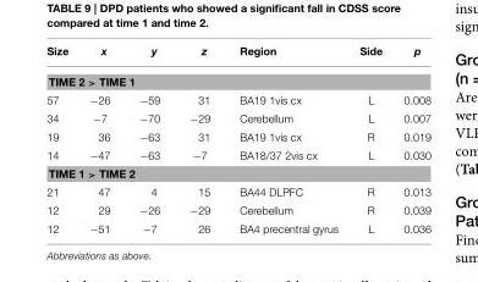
<table><thead><tr><td>Size</td><td>x</td><td>y</td><td>z</td><td>Region</td><td>Side</td><td>p</td></tr></thead><tbody><tr><td colspan="7">TIME 2 &gt; TIME 1</td></tr><tr><td>57</td><td>−26</td><td>−59</td><td>31</td><td>BA19 1vis cx</td><td>L</td><td>0.008</td></tr><tr><td>34</td><td>−7</td><td>−70</td><td>−29</td><td>Cerebellum</td><td>L</td><td>0.007</td></tr><tr><td>19</td><td>36</td><td>−63</td><td>31</td><td>BA19 1vis cx</td><td>R</td><td>0.019</td></tr><tr><td>14</td><td>−47</td><td>−63</td><td>−7</td><td>BA18/37 2vis cx</td><td>L</td><td>0.030</td></tr><tr><td colspan="7">TIME 1 &gt; TIME 2</td></tr><tr><td>21</td><td>47</td><td>4</td><td>15</td><td>BA44 DLPFC</td><td>R</td><td>0.013</td></tr><tr><td>12</td><td>29</td><td>−26</td><td>−29</td><td>Cerebellum</td><td>R</td><td>0.039</td></tr><tr><td>12</td><td>−51</td><td>−7</td><td>26</td><td>BA4 precentral gyrus</td><td>L</td><td>0.036</td></tr></tbody></table>